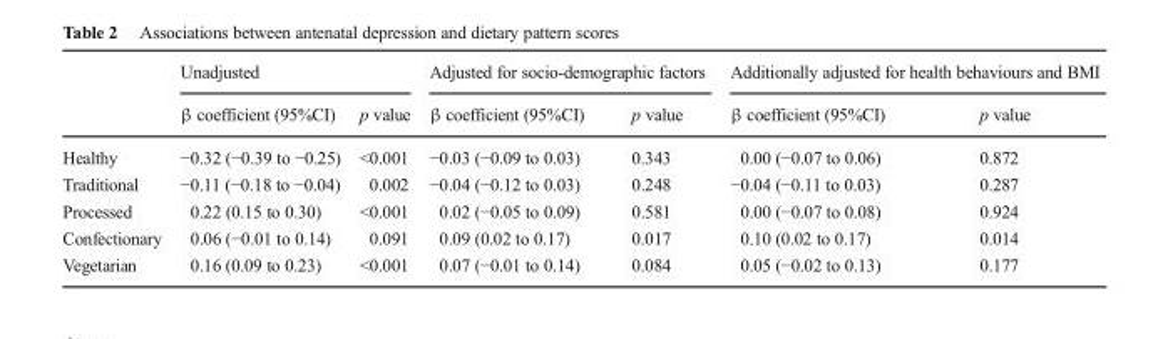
<table><thead><tr><td rowspan="2"></td><td colspan="2">Unadjusted</td><td colspan="2">Adjusted for socio-demographic factors</td><td colspan="2">Additionally adjusted for health behaviours and BMI</td></tr><tr><td>β coefficient (95%CI)</td><td>p value</td><td>β coefficient (95%CI)</td><td>p value</td><td>β coefficient (95%CI)</td><td>p value</td></tr></thead><tbody><tr><td>Healthy</td><td>−0.32 (−0.39 to −0.25)</td><td>&lt;0.001</td><td>−0.03 (−0.09 to 0.03)</td><td>0.343</td><td>0.00 (−0.07 to 0.06)</td><td>0.872</td></tr><tr><td>Traditional</td><td>−0.11 (−0.18 to −0.04)</td><td>0.002</td><td>−0.04 (−0.12 to 0.03)</td><td>0.248</td><td>−0.04 (−0.11 to 0.03)</td><td>0.287</td></tr><tr><td>Processed</td><td>0.22 (0.15 to 0.30)</td><td>&lt;0.001</td><td>0.02 (−0.05 to 0.09)</td><td>0.581</td><td>0.00 (−0.07 to 0.08)</td><td>0.924</td></tr><tr><td>Confectionary</td><td>0.06 (−0.01 to 0.14)</td><td>0.091</td><td>0.09 (0.02 to 0.17)</td><td>0.017</td><td>0.10 (0.02 to 0.17)</td><td>0.014</td></tr><tr><td>Vegetarian</td><td>0.16 (0.09 to 0.23)</td><td>&lt;0.001</td><td>0.07 (−0.01 to 0.14)</td><td>0.084</td><td>0.05 (−0.02 to 0.13)</td><td>0.177</td></tr></tbody></table>